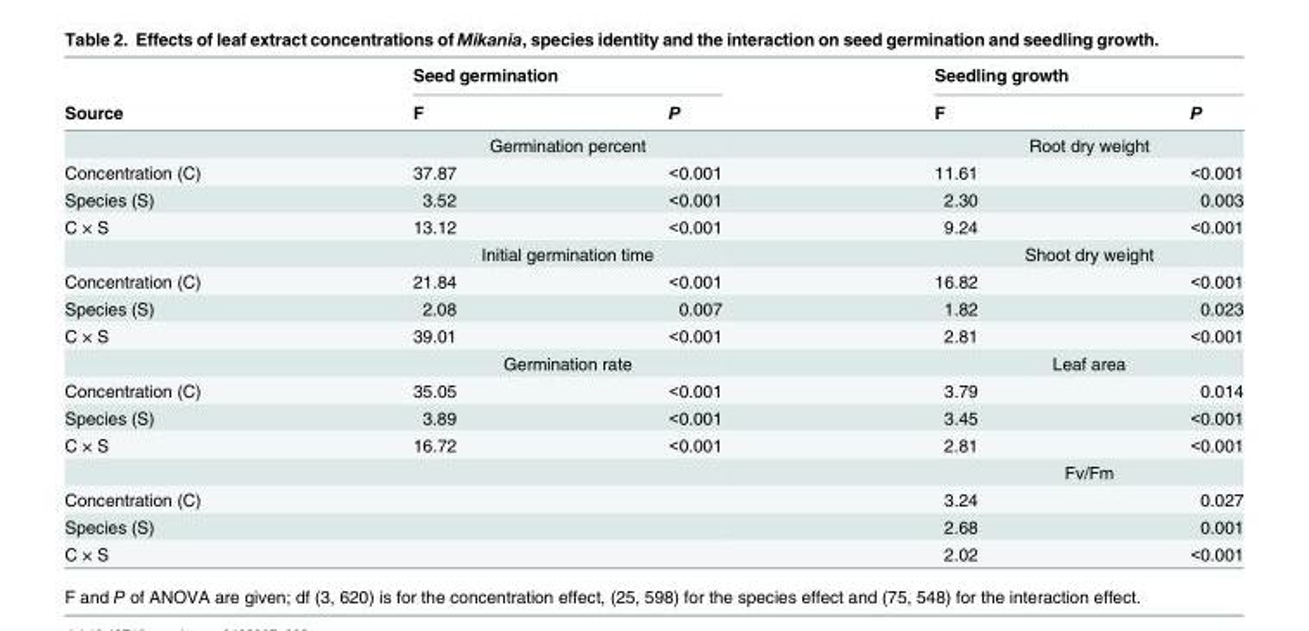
<table><thead><tr><td rowspan="2">Source</td><td colspan="2">Seed germination</td><td colspan="2">Seedling growth</td></tr><tr><td>F</td><td>P</td><td>F</td><td>P</td></tr></thead><tbody><tr><td></td><td colspan="2">Germination percent</td><td colspan="2">Root dry weight</td></tr><tr><td>Concentration (C)</td><td>37.87</td><td>&lt;0.001</td><td>11.61</td><td>&lt;0.001</td></tr><tr><td>Species (S)</td><td>3.52</td><td>&lt;0.001</td><td>2.30</td><td>0.003</td></tr><tr><td rowspan="2">C × S</td><td>13.12</td><td>&lt;0.001</td><td>9.24</td><td>&lt;0.001</td></tr><tr><td colspan="2">Initial germination time</td><td colspan="2">Shoot dry weight</td></tr><tr><td>Concentration (C)</td><td>21.84</td><td>&lt;0.001</td><td>16.82</td><td>&lt;0.001</td></tr><tr><td>Species (S)</td><td>2.08</td><td>0.007</td><td>1.82</td><td>0.023</td></tr><tr><td rowspan="2">C × S</td><td>39.01</td><td>&lt;0.001</td><td>2.81</td><td>&lt;0.001</td></tr><tr><td colspan="2">Germination rate</td><td colspan="2">Leaf area</td></tr><tr><td>Concentration (C)</td><td>35.05</td><td>&lt;0.001</td><td>3.79</td><td>0.014</td></tr><tr><td>Species (S)</td><td>3.89</td><td>&lt;0.001</td><td>3.45</td><td>&lt;0.001</td></tr><tr><td rowspan="2">C × S</td><td>16.72</td><td>&lt;0.001</td><td>2.81</td><td>&lt;0.001</td></tr><tr><td></td><td></td><td colspan="2">Fv/Fm</td></tr><tr><td>Concentration (C)</td><td></td><td></td><td>3.24</td><td>0.027</td></tr><tr><td>Species (S)</td><td></td><td></td><td>2.68</td><td>0.001</td></tr><tr><td>C × S</td><td></td><td></td><td>2.02</td><td>&lt;0.001</td></tr></tbody></table>